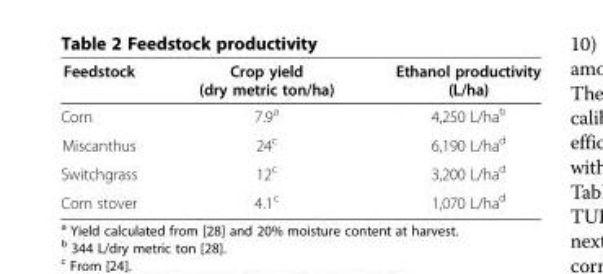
<table><thead><tr><td>Feedstock</td><td>Crop yield (dry metric ton/ha)</td><td>Ethanol productivity (L/ha)</td></tr></thead><tbody><tr><td>Corn</td><td>7.9<sup>a</sup></td><td>4,250 L/ha<sup>b</sup></td></tr><tr><td>Miscanthus</td><td>24<sup>c</sup></td><td>6,190 L/ha<sup>d</sup></td></tr><tr><td>Switchgrass</td><td>12<sup>c</sup></td><td>3,200 L/ha<sup>d</sup></td></tr><tr><td>Corn stover</td><td>4.1<sup>c</sup></td><td>1,070 L/ha<sup>d</sup></td></tr></tbody></table>